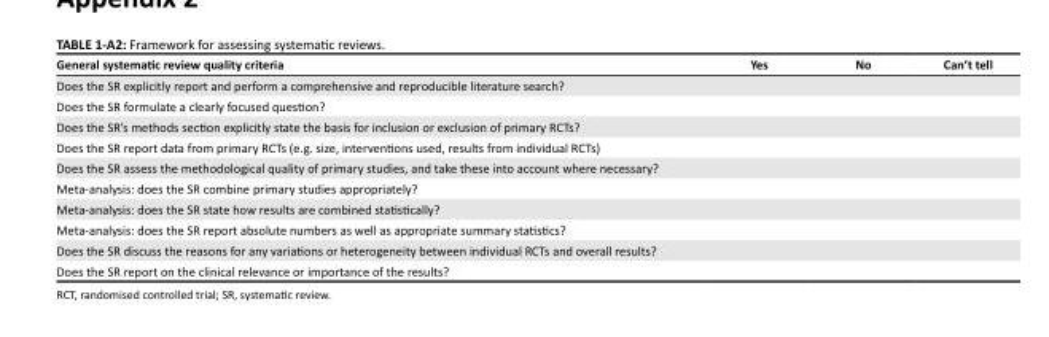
<table><thead><tr><td>General systematic review quality criteria</td><td>Yes</td><td>No</td><td>Can’t tell</td></tr></thead><tbody><tr><td colspan="4">Does the SR explicitly report and perform a comprehensive and reproducible literature search?</td></tr><tr><td colspan="4">Does the SR formulate a clearly focused question?</td></tr><tr><td colspan="4">Does the SR’s methods section explicitly state the basis for inclusion or exclusion of primary RCTs?</td></tr><tr><td colspan="4">Does the SR report data from primary RCTs (e.g. size, interventions used, results from individual RCTs)</td></tr><tr><td colspan="4">Does the SR assess the methodological quality of primary studies, and take these into account where necessary?</td></tr><tr><td colspan="4">Meta-analysis: does the SR combine primary studies appropriately?</td></tr><tr><td colspan="4">Meta-analysis: does the SR state how results are combined statistically?</td></tr><tr><td colspan="4">Meta-analysis: does the SR report absolute numbers as well as appropriate summary statistics?</td></tr><tr><td colspan="4">Does the SR discuss the reasons for any variations or heterogeneity between individual RCTs and overall results?</td></tr><tr><td>Does the SR report on the clinical relevance or importance of the results?</td><td></td><td></td><td></td></tr></tbody></table>